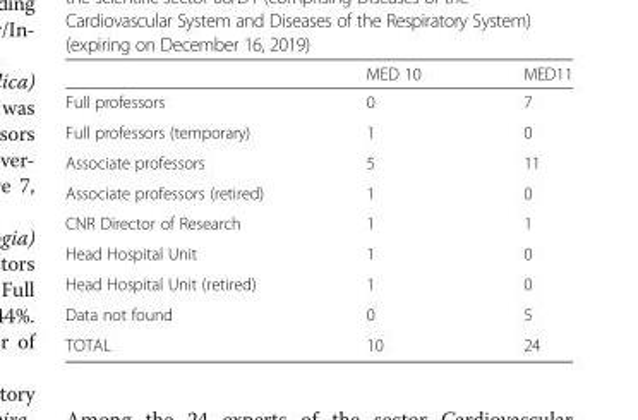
<table><thead><tr><td></td><td>MED 10</td><td>MED11</td></tr></thead><tbody><tr><td>Full professors</td><td>0</td><td>7</td></tr><tr><td>Full professors (temporary)</td><td>1</td><td>0</td></tr><tr><td>Associate professors</td><td>5</td><td>11</td></tr><tr><td>Associate professors (retired)</td><td>1</td><td>0</td></tr><tr><td>CNR Director of Research</td><td>1</td><td>1</td></tr><tr><td>Head Hospital Unit</td><td>1</td><td>0</td></tr><tr><td>Head Hospital Unit (retired)</td><td>1</td><td>0</td></tr><tr><td>Data not found</td><td>0</td><td>5</td></tr><tr><td>TOTAL</td><td>10</td><td>24</td></tr></tbody></table>